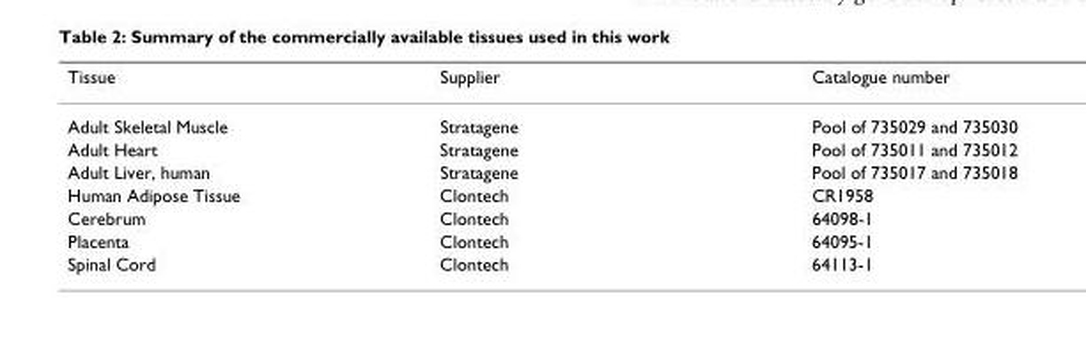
<table><thead><tr><td>Tissue</td><td>Supplier</td><td>Catalogue number</td></tr></thead><tbody><tr><td>Adult Skeletal Muscle</td><td>Stratagene</td><td>Pool of 735029 and 735030</td></tr><tr><td>Adult Heart</td><td>Stratagene</td><td>Pool of 735011 and 735012</td></tr><tr><td>Adult Liver, human</td><td>Stratagene</td><td>Pool of 735017 and 735018</td></tr><tr><td>Human Adipose Tissue</td><td>Clontech</td><td>CR1958</td></tr><tr><td>Cerebrum</td><td>Clontech</td><td>64098-1</td></tr><tr><td>Placenta</td><td>Clontech</td><td>64095-1</td></tr><tr><td>Spinal Cord</td><td>Clontech</td><td>64113-1</td></tr></tbody></table>